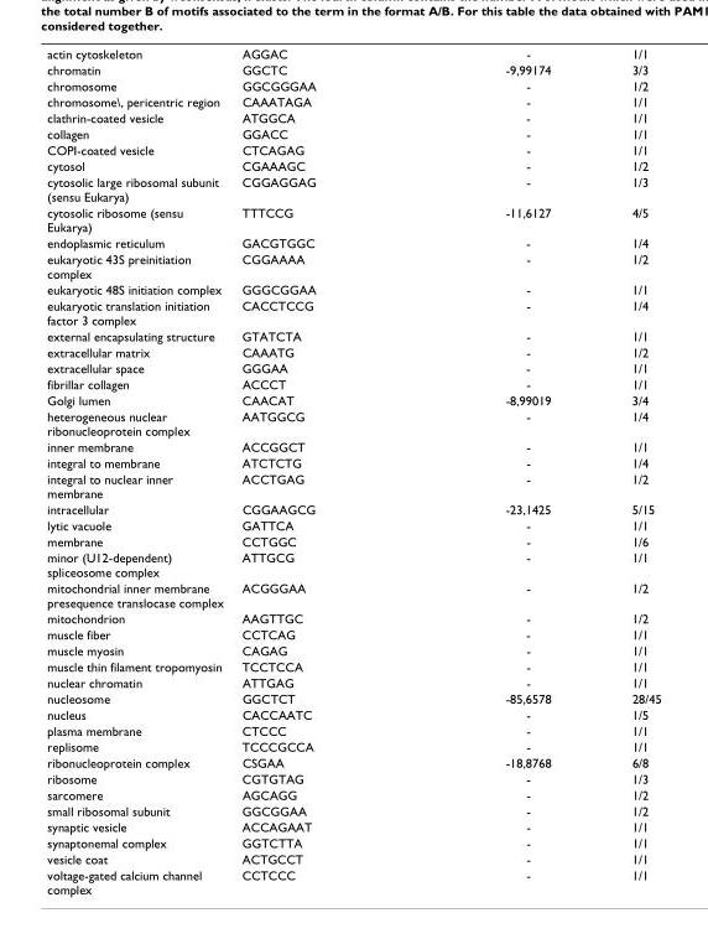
<table><tbody><tr><td>actin cytoskeleton</td><td>AGGAC</td><td>-</td><td>1/1</td></tr><tr><td>chromatin</td><td>GGCTC</td><td>-9,99174</td><td>3/3</td></tr><tr><td>chromosome</td><td>GGCGGGAA</td><td>-</td><td>1/2</td></tr><tr><td>chromosome\, pericentric region</td><td>CAAATAGA</td><td>-</td><td>1/1</td></tr><tr><td>clathrin-coated vesicle</td><td>ATGGCA</td><td>-</td><td>1/1</td></tr><tr><td>collagen</td><td>GGACC</td><td>-</td><td>1/1</td></tr><tr><td>COPI-coated vesicle</td><td>CTCAGAG</td><td>-</td><td>1/1</td></tr><tr><td>cytosol</td><td>CGAAAGC</td><td>-</td><td>1/2</td></tr><tr><td>cytosolic large ribosomal subunit (sensu Eukarya)</td><td>CGGAGGAG</td><td>-</td><td>1/3</td></tr><tr><td>cytosolic ribosome (sensu Eukarya)</td><td>TTTCCG</td><td>-11,6127</td><td>4/5</td></tr><tr><td>endoplasmic reticulum</td><td>GACGTGGC</td><td>-</td><td>1/4</td></tr><tr><td>eukaryotic 43S preinitiation complex</td><td>CGGAAAA</td><td>-</td><td>1/2</td></tr><tr><td>eukaryotic 48S initiation complex</td><td>GGGCGGAA</td><td>-</td><td>1/1</td></tr><tr><td>eukaryotic translation initiation factor 3 complex</td><td>CACCTCCG</td><td>-</td><td>1/4</td></tr><tr><td>external encapsulating structure</td><td>GTATCTA</td><td>-</td><td>1/1</td></tr><tr><td>extracellular matrix</td><td>CAAATG</td><td>-</td><td>1/2</td></tr><tr><td>extracellular space</td><td>GGGAA</td><td>-</td><td>1/1</td></tr><tr><td>fibrillar collagen</td><td>ACCCT</td><td>-</td><td>1/1</td></tr><tr><td>Golgi lumen</td><td>CAACAT</td><td>-8,99019</td><td>3/4</td></tr><tr><td>heterogeneous nuclear ribonucleoprotein complex</td><td>AATGGCG</td><td>-</td><td>1/4</td></tr><tr><td>inner membrane</td><td>ACCGGCT</td><td>-</td><td>1/1</td></tr><tr><td>integral to membrane</td><td>ATCTCTG</td><td>-</td><td>1/4</td></tr><tr><td>integral to nuclear inner membrane</td><td>ACCTGAG</td><td>-</td><td>1/2</td></tr><tr><td>intracellular</td><td>CGGAAGCG</td><td>-23,1425</td><td>5/15</td></tr><tr><td>lytic vacuole</td><td>GATTCA</td><td>-</td><td>1/1</td></tr><tr><td>membrane</td><td>CCTGGC</td><td>-</td><td>1/6</td></tr><tr><td>minor (U12-dependent) spliceosome complex</td><td>ATTGCG</td><td>-</td><td>1/1</td></tr><tr><td>mitochondrial inner membrane presequence translocase complex</td><td>ACGGGAA</td><td>-</td><td>1/2</td></tr><tr><td>mitochondrion</td><td>AAGTTGC</td><td>-</td><td>1/2</td></tr><tr><td>muscle fiber</td><td>CCTCAG</td><td>-</td><td>1/1</td></tr><tr><td>muscle myosin</td><td>CAGAG</td><td>-</td><td>1/1</td></tr><tr><td>muscle thin filament tropomyosin</td><td>TCCTCCA</td><td>-</td><td>1/1</td></tr><tr><td>nuclear chromatin</td><td>ATTGAG</td><td>-</td><td>1/1</td></tr><tr><td>nucleosome</td><td>GGCTCT</td><td>-85,6578</td><td>28/45</td></tr><tr><td>nucleus</td><td>CACCAATC</td><td>-</td><td>1/5</td></tr><tr><td>plasma membrane</td><td>CTCCC</td><td>-</td><td>1/1</td></tr><tr><td>replisome</td><td>TCCCGCCA</td><td>-</td><td>1/1</td></tr><tr><td>ribonucleoprotein complex</td><td>CSGAA</td><td>-18,8768</td><td>6/8</td></tr><tr><td>ribosome</td><td>CGTGTAG</td><td>-</td><td>1/3</td></tr><tr><td>sarcomere</td><td>AGCAGG</td><td>-</td><td>1/2</td></tr><tr><td>small ribosomal subunit</td><td>GGCGGAA</td><td>-</td><td>1/2</td></tr><tr><td>synaptic vesicle</td><td>ACCAGAAT</td><td>-</td><td>1/1</td></tr><tr><td>synaptonemal complex</td><td>GGTCTTA</td><td>-</td><td>1/1</td></tr><tr><td>vesicle coat</td><td>ACTGCCT</td><td>-</td><td>1/1</td></tr><tr><td>voltage-gated calcium channel complex</td><td>CCTCCC</td><td>-</td><td>1/1</td></tr></tbody></table>